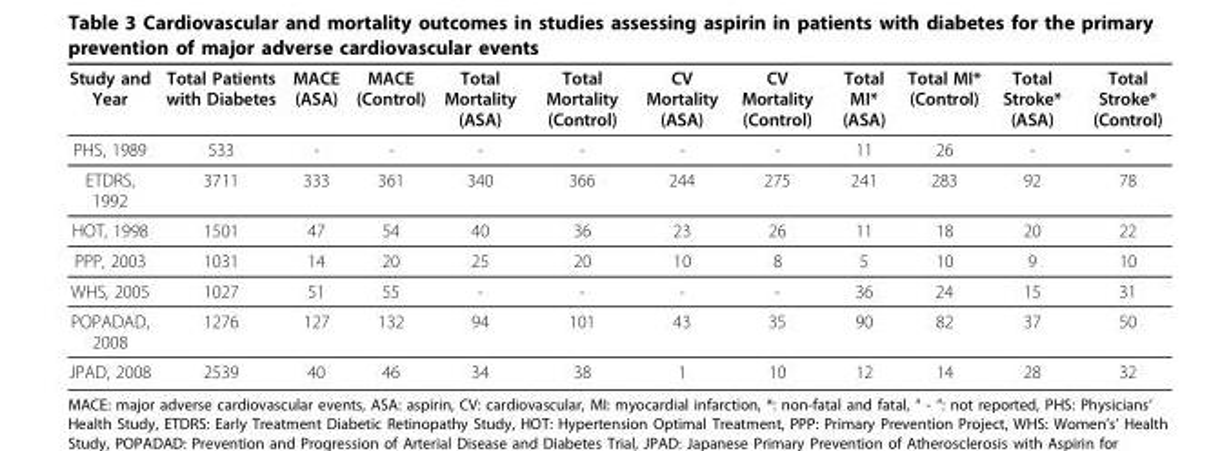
<table><thead><tr><td>Study and Year</td><td>Total Patients with Diabetes</td><td>MACE (ASA)</td><td>MACE (Control)</td><td>Total Mortality (ASA)</td><td>Total Mortality (Control)</td><td>CV Mortality (ASA)</td><td>CV Mortality (Control)</td><td>Total MI* (ASA)</td><td>Total MI* (Control)</td><td>Total Stroke* (ASA)</td><td>Total Stroke* (Control)</td></tr></thead><tbody><tr><td>PHS, 1989</td><td>533</td><td>-</td><td>-</td><td>-</td><td>-</td><td>-</td><td>-</td><td>11</td><td>26</td><td>-</td><td>-</td></tr><tr><td>ETDRS, 1992</td><td>3711</td><td>333</td><td>361</td><td>340</td><td>366</td><td>244</td><td>275</td><td>241</td><td>283</td><td>92</td><td>78</td></tr><tr><td>HOT, 1998</td><td>1501</td><td>47</td><td>54</td><td>40</td><td>36</td><td>23</td><td>26</td><td>11</td><td>18</td><td>20</td><td>22</td></tr><tr><td>PPP, 2003</td><td>1031</td><td>14</td><td>20</td><td>25</td><td>20</td><td>10</td><td>8</td><td>5</td><td>10</td><td>9</td><td>10</td></tr><tr><td>WHS, 2005</td><td>1027</td><td>51</td><td>55</td><td>-</td><td>-</td><td>-</td><td>-</td><td>36</td><td>24</td><td>15</td><td>31</td></tr><tr><td>POPADAD, 2008</td><td>1276</td><td>127</td><td>132</td><td>94</td><td>101</td><td>43</td><td>35</td><td>90</td><td>82</td><td>37</td><td>50</td></tr><tr><td>JPAD, 2008</td><td>2539</td><td>40</td><td>46</td><td>34</td><td>38</td><td>1</td><td>10</td><td>12</td><td>14</td><td>28</td><td>32</td></tr></tbody></table>